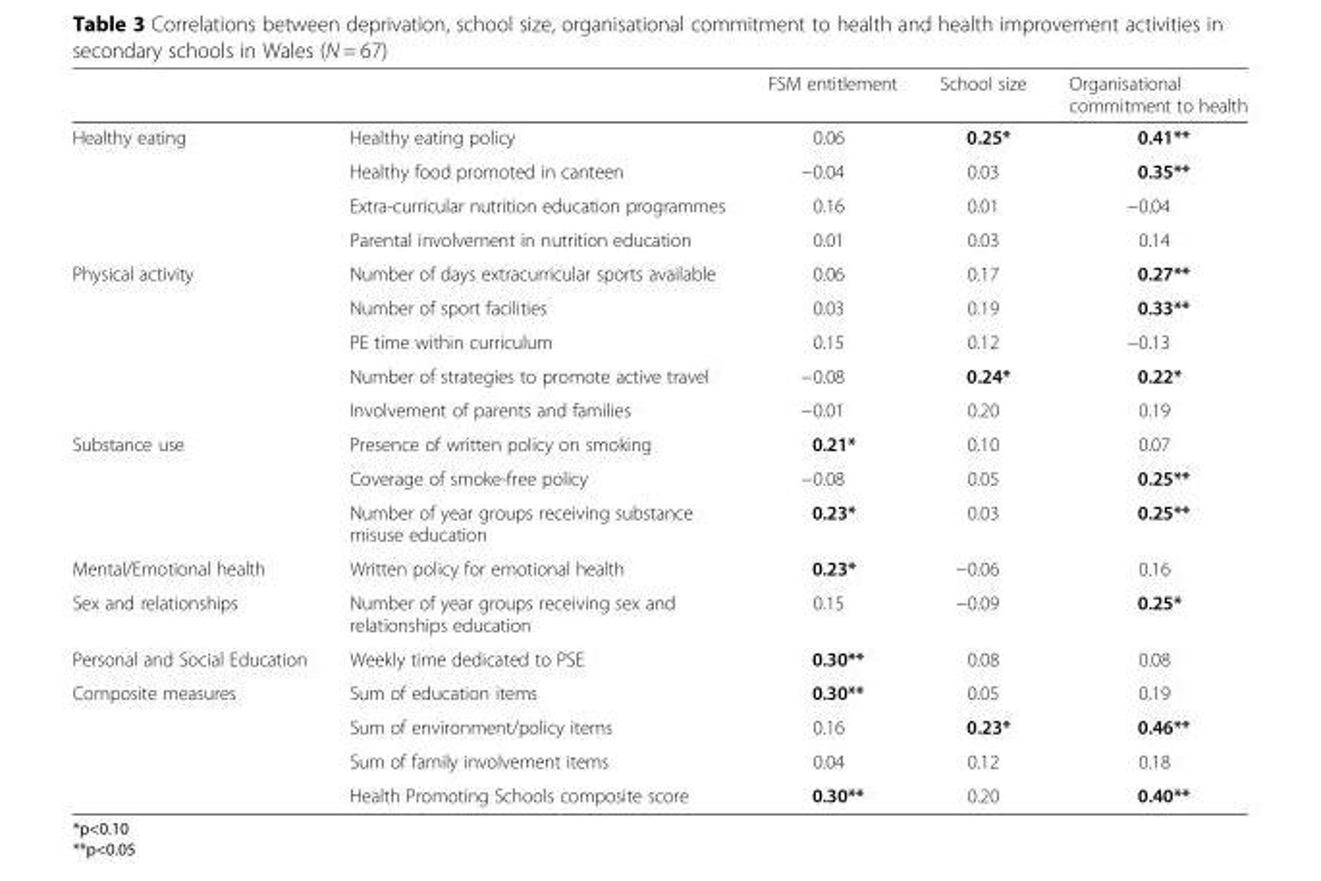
<table><thead><tr><td></td><td></td><td>FSM entitlement</td><td>School size</td><td>Organisational commitment to health</td></tr></thead><tbody><tr><td rowspan="4">Healthy eating</td><td>Healthy eating policy</td><td>0.06</td><td>0.25*</td><td>0.41**</td></tr><tr><td>Healthy food promoted in canteen</td><td>−0.04</td><td>0.03</td><td>0.35**</td></tr><tr><td>Extra-curricular nutrition education programmes</td><td>0.16</td><td>0.01</td><td>−0.04</td></tr><tr><td>Parental involvement in nutrition education</td><td>0.01</td><td>0.03</td><td>0.14</td></tr><tr><td rowspan="5">Physical activity</td><td>Number of days extracurricular sports available</td><td>0.06</td><td>0.17</td><td>0.27**</td></tr><tr><td>Number of sport facilities</td><td>0.03</td><td>0.19</td><td>0.33**</td></tr><tr><td>PE time within curriculum</td><td>0.15</td><td>0.12</td><td>−0.13</td></tr><tr><td>Number of strategies to promote active travel</td><td>−0.08</td><td>0.24*</td><td>0.22*</td></tr><tr><td>Involvement of parents and families</td><td>−0.01</td><td>0.20</td><td>0.19</td></tr><tr><td rowspan="3">Substance use</td><td>Presence of written policy on smoking</td><td>0.21*</td><td>0.10</td><td>0.07</td></tr><tr><td>Coverage of smoke-free policy</td><td>−0.08</td><td>0.05</td><td>0.25**</td></tr><tr><td>Number of year groups receiving substance misuse education</td><td>0.23*</td><td>0.03</td><td>0.25**</td></tr><tr><td>Mental/Emotional health</td><td>Written policy for emotional health</td><td>0.23*</td><td>−0.06</td><td>0.16</td></tr><tr><td>Sex and relationships</td><td>Number of year groups receiving sex and relationships education</td><td>0.15</td><td>−0.09</td><td>0.25*</td></tr><tr><td>Personal and Social Education</td><td>Weekly time dedicated to PSE</td><td>0.30**</td><td>0.08</td><td>0.08</td></tr><tr><td rowspan="4">Composite measures</td><td>Sum of education items</td><td>0.30**</td><td>0.05</td><td>0.19</td></tr><tr><td>Sum of environment/policy items</td><td>0.16</td><td>0.23*</td><td>0.46**</td></tr><tr><td>Sum of family involvement items</td><td>0.04</td><td>0.12</td><td>0.18</td></tr><tr><td>Health Promoting Schools composite score</td><td>0.30**</td><td>0.20</td><td>0.40**</td></tr></tbody></table>